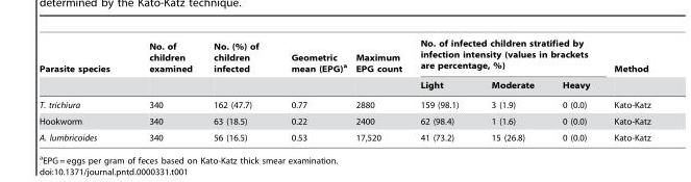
<table><thead><tr><td rowspan="2">Parasite species</td><td rowspan="2">No. of children examined</td><td rowspan="2">No. (%) of children infected</td><td rowspan="2">Geometric mean (EPG)<sup>a</sup></td><td rowspan="2">Maximum EPG count</td><td colspan="3">No. of infected children stratified by infection intensity (values in brackets are percentage, %)</td><td rowspan="2">Method</td></tr><tr><td>Light</td><td>Moderate</td><td>Heavy</td></tr></thead><tbody><tr><td>T. trichiura</td><td>340</td><td>162 (47.7)</td><td>0.77</td><td>2880</td><td>159 (98.1)</td><td>3 (1.9)</td><td>0 (0.0)</td><td>Kato-Katz</td></tr><tr><td>Hookworm</td><td>340</td><td>63 (18.5)</td><td>0.22</td><td>2400</td><td>62 (98.4)</td><td>1 (1.6)</td><td>0 (0.0)</td><td>Kato-Katz</td></tr><tr><td>A. lumbricoides</td><td>340</td><td>56 (16.5)</td><td>0.53</td><td>17,520</td><td>41 (73.2)</td><td>15 (26.8)</td><td>0 (0.0)</td><td>Kato-Katz</td></tr></tbody></table>